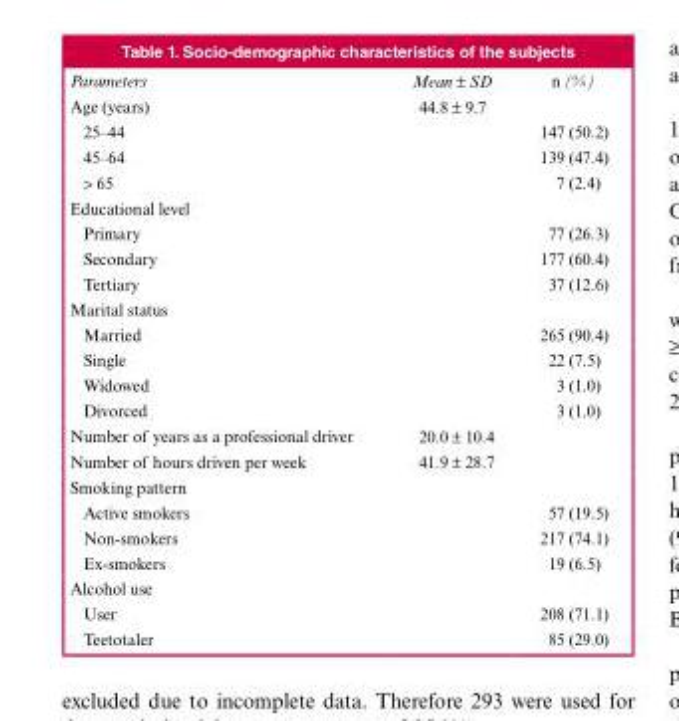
<table><thead><tr><td>Parameters</td><td>Mean ± SD</td><td>n (%)</td></tr></thead><tbody><tr><td>Age (years)</td><td>44.8 ± 9.7</td><td></td></tr><tr><td>25–44</td><td></td><td>147 (50.2)</td></tr><tr><td>45–64</td><td></td><td>139 (47.4)</td></tr><tr><td>&gt; 65</td><td></td><td>7 (2.4)</td></tr><tr><td colspan="3">Educational level</td></tr><tr><td>Primary</td><td></td><td>77 (26.3)</td></tr><tr><td>Secondary</td><td></td><td>177 (60.4)</td></tr><tr><td>Tertiary</td><td></td><td>37 (12.6)</td></tr><tr><td colspan="3">Marital status</td></tr><tr><td>Married</td><td></td><td>265 (90.4)</td></tr><tr><td>Single</td><td></td><td>22 (7.5)</td></tr><tr><td>Widowed</td><td></td><td>3 (1.0)</td></tr><tr><td>Divorced</td><td></td><td>3 (1.0)</td></tr><tr><td>Number of years as a professional driver</td><td>20.0 ± 10.4</td><td></td></tr><tr><td>Number of hours driven per week</td><td>41.9 ± 28.7</td><td></td></tr><tr><td colspan="3">Smoking pattern</td></tr><tr><td>Active smokers</td><td></td><td>57 (19.5)</td></tr><tr><td>Non-smokers</td><td></td><td>217 (74.1)</td></tr><tr><td>Ex-smokers</td><td></td><td>19 (6.5)</td></tr><tr><td colspan="3">Alcohol use</td></tr><tr><td>User</td><td></td><td>208 (71.1)</td></tr><tr><td>Teetotaler</td><td></td><td>85 (29.0)</td></tr></tbody></table>